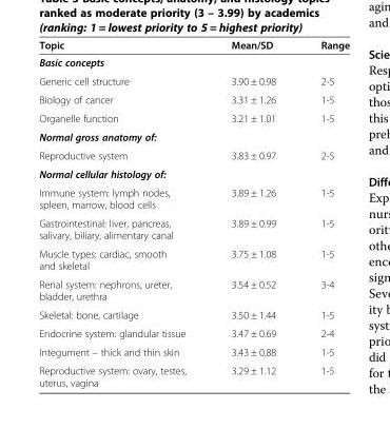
<table><thead><tr><td>Topic</td><td>Mean/SD</td><td>Range</td></tr></thead><tbody><tr><td colspan="3">Basic concepts</td></tr><tr><td>Generic cell structure</td><td>3.90 ± 0.98</td><td>2-5</td></tr><tr><td>Biology of cancer</td><td>3.31 ± 1.26</td><td>1-5</td></tr><tr><td>Organelle function</td><td>3.21 ± 1.01</td><td>1-5</td></tr><tr><td colspan="3">Normal gross anatomy of:</td></tr><tr><td>Reproductive system</td><td>3.83 ± 0.97</td><td>2-5</td></tr><tr><td colspan="3">Normal cellular histology of:</td></tr><tr><td>Immune system: lymph nodes, spleen, marrow, blood cells</td><td>3.89 ± 1.26</td><td>1-5</td></tr><tr><td>Gastrointestinal: liver, pancreas, salivary, biliary, alimentary canal</td><td>3.89 ± 0.99</td><td>1-5</td></tr><tr><td>Muscle types: cardiac, smooth and skeletal</td><td>3.75 ± 1.08</td><td>1-5</td></tr><tr><td>Renal system: nephrons, ureter, bladder, urethra</td><td>3.54 ± 0.52</td><td>3-4</td></tr><tr><td>Skeletal: bone, cartilage</td><td>3.50 ± 1.44</td><td>1-5</td></tr><tr><td>Endocrine system: glandular tissue</td><td>3.47 ± 0.69</td><td>2-4</td></tr><tr><td>Integument – thick and thin skin</td><td>3.43 ± 0.88</td><td>1-5</td></tr><tr><td>Reproductive system: ovary, testes, uterus, vagina</td><td>3.29 ± 1.12</td><td>1-5</td></tr></tbody></table>